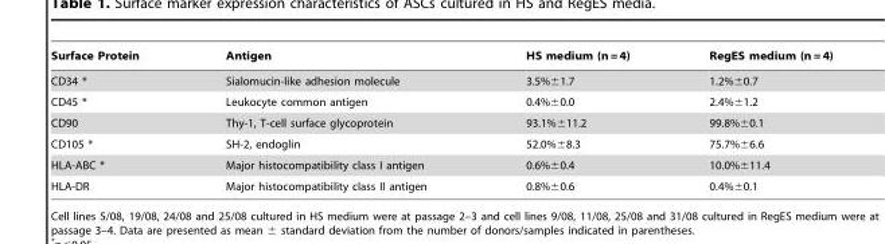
<table><thead><tr><td>Surface Protein</td><td>Antigen</td><td>HS medium (n = 4)</td><td>RegES medium (n = 4)</td></tr></thead><tbody><tr><td>CD34 *</td><td>Sialomucin-like adhesion molecule</td><td>3.5%±1.7</td><td>1.2%±0.7</td></tr><tr><td>CD45 *</td><td>Leukocyte common antigen</td><td>0.4%±0.0</td><td>2.4%±1.2</td></tr><tr><td>CD90</td><td>Thy-1, T-cell surface glycoprotein</td><td>93.1%±11.2</td><td>99.8%±0.1</td></tr><tr><td>CD105 *</td><td>SH-2, endoglin</td><td>52.0%±8.3</td><td>75.7%±6.6</td></tr><tr><td>HLA-ABC *</td><td>Major histocompatibility class I antigen</td><td>0.6%±0.4</td><td>10.0%±11.4</td></tr><tr><td>HLA-DR</td><td>Major histocompatibility class II antigen</td><td>0.8%±0.6</td><td>0.4%±0.1</td></tr></tbody></table>